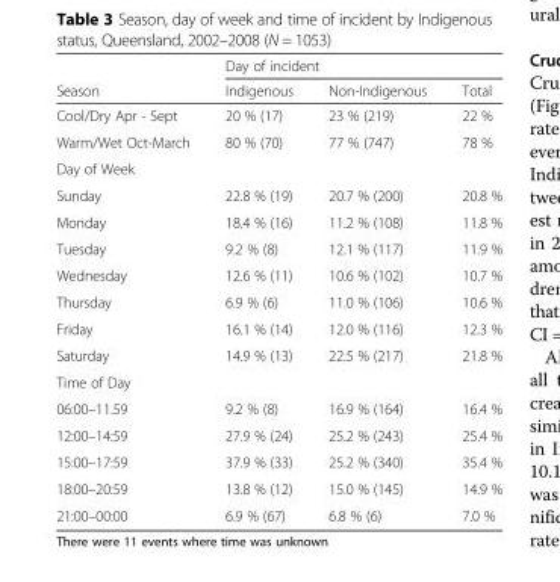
<table><thead><tr><td rowspan="2">Season</td><td colspan="3">Day of incident</td></tr><tr><td>Indigenous</td><td>Non-Indigenous</td><td>Total</td></tr></thead><tbody><tr><td>Cool/Dry Apr - Sept</td><td>20 % (17)</td><td>23 % (219)</td><td>22 %</td></tr><tr><td>Warm/Wet Oct-March</td><td>80 % (70)</td><td>77 % (747)</td><td>78 %</td></tr><tr><td colspan="4">Day of Week</td></tr><tr><td>Sunday</td><td>22.8 % (19)</td><td>20.7 % (200)</td><td>20.8 %</td></tr><tr><td>Monday</td><td>18.4 % (16)</td><td>11.2 % (108)</td><td>11.8 %</td></tr><tr><td>Tuesday</td><td>9.2 % (8)</td><td>12.1 % (117)</td><td>11.9 %</td></tr><tr><td>Wednesday</td><td>12.6 % (11)</td><td>10.6 % (102)</td><td>10.7 %</td></tr><tr><td>Thursday</td><td>6.9 % (6)</td><td>11.0 % (106)</td><td>10.6 %</td></tr><tr><td>Friday</td><td>16.1 % (14)</td><td>12.0 % (116)</td><td>12.3 %</td></tr><tr><td>Saturday</td><td>14.9 % (13)</td><td>22.5 % (217)</td><td>21.8 %</td></tr><tr><td colspan="4">Time of Day</td></tr><tr><td>06:00–11.59</td><td>9.2 % (8)</td><td>16.9 % (164)</td><td>16.4 %</td></tr><tr><td>12:00–14:59</td><td>27.9 % (24)</td><td>25.2 % (243)</td><td>25.4 %</td></tr><tr><td>15:00–17:59</td><td>37.9 % (33)</td><td>25.2 % (340)</td><td>35.4 %</td></tr><tr><td>18:00–20:59</td><td>13.8 % (12)</td><td>15.0 % (145)</td><td>14.9 %</td></tr><tr><td>21:00–00:00</td><td>6.9 % (67)</td><td>6.8 % (6)</td><td>7.0 %</td></tr></tbody></table>